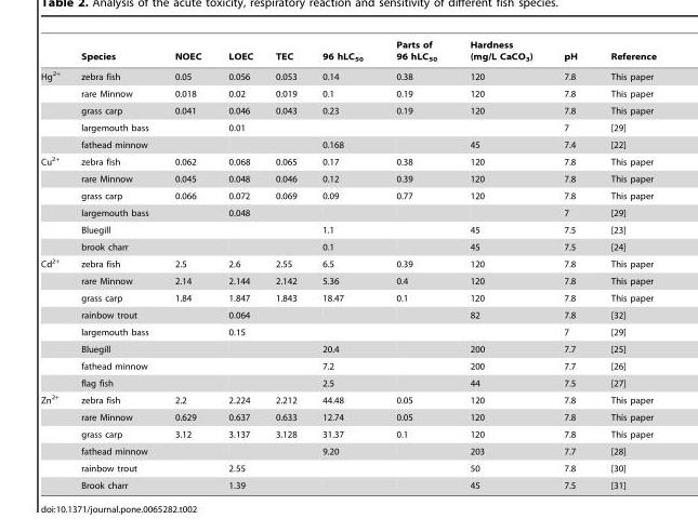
<table><thead><tr><td></td><td>Species</td><td>NOEC</td><td>LOEC</td><td>TEC</td><td>96 hLC<sub>50</sub></td><td>Parts of 96 hLC<sub>50</sub></td><td>Hardness (mg/L CaCO<sub>3</sub>)</td><td>pH</td><td>Reference</td></tr></thead><tbody><tr><td rowspan="5">Hg<sup>2+</sup></td><td>zebra fish</td><td>0.05</td><td>0.056</td><td>0.053</td><td>0.14</td><td>0.38</td><td>120</td><td>7.8</td><td>This paper</td></tr><tr><td>rare Minnow</td><td>0.018</td><td>0.02</td><td>0.019</td><td>0.1</td><td>0.19</td><td>120</td><td>7.8</td><td>This paper</td></tr><tr><td>grass carp</td><td>0.041</td><td>0.046</td><td>0.043</td><td>0.23</td><td>0.19</td><td>120</td><td>7.8</td><td>This paper</td></tr><tr><td>largemouth bass</td><td></td><td>0.01</td><td></td><td></td><td></td><td></td><td>7</td><td>[29]</td></tr><tr><td>fathead minnow</td><td></td><td></td><td></td><td>0.168</td><td></td><td>45</td><td>7.4</td><td>[22]</td></tr><tr><td rowspan="6">Cu<sup>2+</sup></td><td>zebra fish</td><td>0.062</td><td>0.068</td><td>0.065</td><td>0.17</td><td>0.38</td><td>120</td><td>7.8</td><td>This paper</td></tr><tr><td>rare Minnow</td><td>0.045</td><td>0.048</td><td>0.046</td><td>0.12</td><td>0.39</td><td>120</td><td>7.8</td><td>This paper</td></tr><tr><td>grass carp</td><td>0.066</td><td>0.072</td><td>0.069</td><td>0.09</td><td>0.77</td><td>120</td><td>7.8</td><td>This paper</td></tr><tr><td>largemouth bass</td><td></td><td>0.048</td><td></td><td></td><td></td><td></td><td>7</td><td>[29]</td></tr><tr><td>Bluegill</td><td></td><td></td><td></td><td>1.1</td><td></td><td>45</td><td>7.5</td><td>[23]</td></tr><tr><td>brook charr</td><td></td><td></td><td></td><td>0.1</td><td></td><td>45</td><td>7.5</td><td>[24]</td></tr><tr><td rowspan="8">Cd<sup>2+</sup></td><td>zebra fish</td><td>2.5</td><td>2.6</td><td>2.55</td><td>6.5</td><td>0.39</td><td>120</td><td>7.8</td><td>This paper</td></tr><tr><td>rare Minnow</td><td>2.14</td><td>2.144</td><td>2.142</td><td>5.36</td><td>0.4</td><td>120</td><td>7.8</td><td>This paper</td></tr><tr><td>grass carp</td><td>1.84</td><td>1.847</td><td>1.843</td><td>18.47</td><td>0.1</td><td>120</td><td>7.8</td><td>This paper</td></tr><tr><td>rainbow trout</td><td></td><td>0.064</td><td></td><td></td><td></td><td>82</td><td>7.8</td><td>[32]</td></tr><tr><td>largemouth bass</td><td></td><td>0.15</td><td></td><td></td><td></td><td></td><td>7</td><td>[29]</td></tr><tr><td>Bluegill</td><td></td><td></td><td></td><td>20.4</td><td></td><td>200</td><td>7.7</td><td>[25]</td></tr><tr><td>fathead minnow</td><td></td><td></td><td></td><td>7.2</td><td></td><td>200</td><td>7.7</td><td>[26]</td></tr><tr><td>flag fish</td><td></td><td></td><td></td><td>2.5</td><td></td><td>44</td><td>7.5</td><td>[27]</td></tr><tr><td rowspan="6">Zn<sup>2+</sup></td><td>zebra fish</td><td>2.2</td><td>2.224</td><td>2.212</td><td>44.48</td><td>0.05</td><td>120</td><td>7.8</td><td>This paper</td></tr><tr><td>rare Minnow</td><td>0.629</td><td>0.637</td><td>0.633</td><td>12.74</td><td>0.05</td><td>120</td><td>7.8</td><td>This paper</td></tr><tr><td>grass carp</td><td>3.12</td><td>3.137</td><td>3.128</td><td>31.37</td><td>0.1</td><td>120</td><td>7.8</td><td>This paper</td></tr><tr><td>fathead minnow</td><td></td><td></td><td></td><td>9.20</td><td></td><td>203</td><td>7.7</td><td>[28]</td></tr><tr><td>rainbow trout</td><td></td><td>2.55</td><td></td><td></td><td></td><td>50</td><td>7.8</td><td>[30]</td></tr><tr><td>Brook charr</td><td></td><td>1.39</td><td></td><td></td><td></td><td>45</td><td>7.5</td><td>[31]</td></tr></tbody></table>